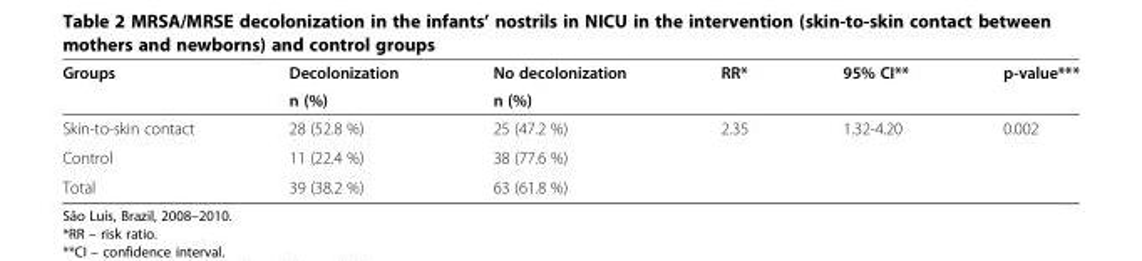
<table><thead><tr><td rowspan="2">Groups</td><td rowspan="2">Decolonization n (%)</td><td rowspan="2">No decolonization n (%)</td><td rowspan="2">RR*</td><td rowspan="2">95% CI**</td><td rowspan="2">p-value***</td></tr><tr></tr></thead><tbody><tr><td>Skin-to-skin contact</td><td>28 (52.8 %)</td><td>25 (47.2 %)</td><td>2.35</td><td>1.32-4.20</td><td>0.002</td></tr><tr><td>Control</td><td>11 (22.4 %)</td><td>38 (77.6 %)</td><td></td><td></td><td></td></tr><tr><td>Total</td><td>39 (38.2 %)</td><td>63 (61.8 %)</td><td></td><td></td><td></td></tr></tbody></table>